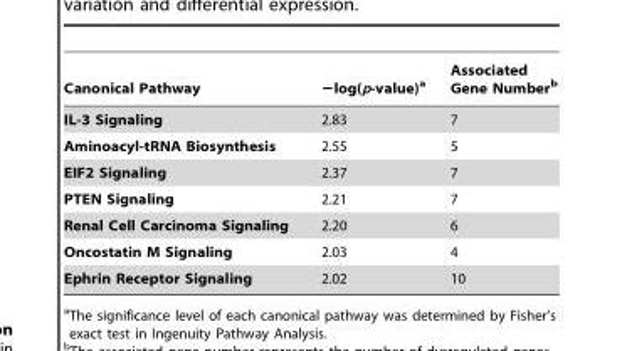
<table><thead><tr><td>Canonical Pathway</td><td>−log(p-value)<sup>a</sup></td><td>Associated Gene Number<sup>b</sup></td></tr></thead><tbody><tr><td>IL-3 Signaling</td><td>2.83</td><td>7</td></tr><tr><td>Aminoacyl-tRNA Biosynthesis</td><td>2.55</td><td>5</td></tr><tr><td>EIF2 Signaling</td><td>2.37</td><td>7</td></tr><tr><td>PTEN Signaling</td><td>2.21</td><td>7</td></tr><tr><td>Renal Cell Carcinoma Signaling</td><td>2.20</td><td>6</td></tr><tr><td>Oncostatin M Signaling</td><td>2.03</td><td>4</td></tr><tr><td>Ephrin Receptor Signaling</td><td>2.02</td><td>10</td></tr></tbody></table>